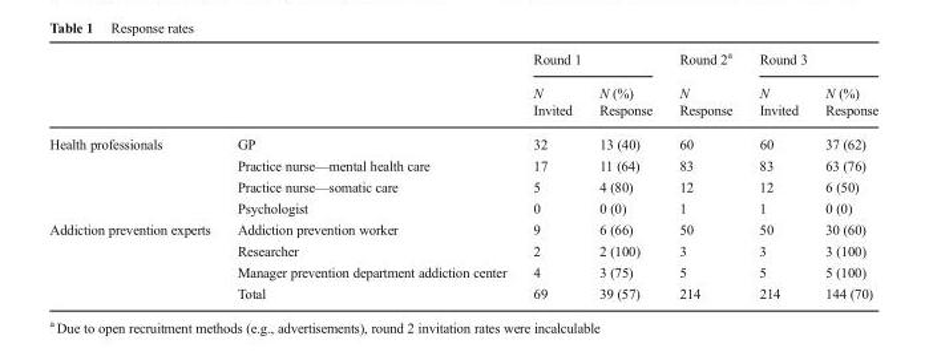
<table><thead><tr><td rowspan="3"></td><td rowspan="3"></td><td colspan="2">Round 1</td><td rowspan="3">Round 2<sup>a</sup> N Response</td><td colspan="2">Round 3</td></tr><tr><td rowspan="2">N Invited</td><td rowspan="2">N (%) Response</td><td rowspan="2">N Invited</td><td rowspan="2">N (%) Response</td></tr><tr></tr></thead><tbody><tr><td rowspan="4">Health professionals</td><td>GP</td><td>32</td><td>13 (40)</td><td>60</td><td>60</td><td>37 (62)</td></tr><tr><td>Practice nurse—mental health care</td><td>17</td><td>11 (64)</td><td>83</td><td>83</td><td>63 (76)</td></tr><tr><td>Practice nurse—somatic care</td><td>5</td><td>4 (80)</td><td>12</td><td>12</td><td>6 (50)</td></tr><tr><td>Psychologist</td><td>0</td><td>0 (0)</td><td>1</td><td>1</td><td>0 (0)</td></tr><tr><td rowspan="4">Addiction prevention experts</td><td>Addiction prevention worker</td><td>9</td><td>6 (66)</td><td>50</td><td>50</td><td>30 (60)</td></tr><tr><td>Researcher</td><td>2</td><td>2 (100)</td><td>3</td><td>3</td><td>3 (100)</td></tr><tr><td>Manager prevention department addiction center</td><td>4</td><td>3 (75)</td><td>5</td><td>5</td><td>5 (100)</td></tr><tr><td>Total</td><td>69</td><td>39 (57)</td><td>214</td><td>214</td><td>144 (70)</td></tr></tbody></table>